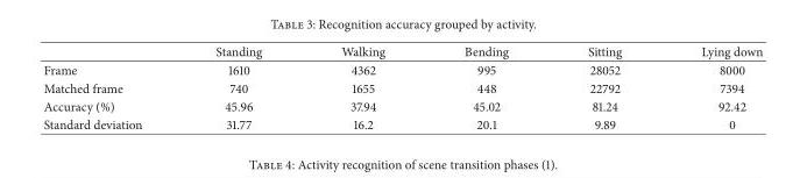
<table><thead><tr><td></td><td>Standing</td><td>Walking</td><td>Bending</td><td>Sitting</td><td>Lying down</td></tr></thead><tbody><tr><td>Frame</td><td>1610</td><td>4362</td><td>995</td><td>28052</td><td>8000</td></tr><tr><td>Matched frame</td><td>740</td><td>1655</td><td>448</td><td>22792</td><td>7394</td></tr><tr><td>Accuracy (%)</td><td>45.96</td><td>37.94</td><td>45.02</td><td>81.24</td><td>92.42</td></tr><tr><td>Standard deviation</td><td>31.77</td><td>16.2</td><td>20.1</td><td>9.89</td><td>0</td></tr></tbody></table>